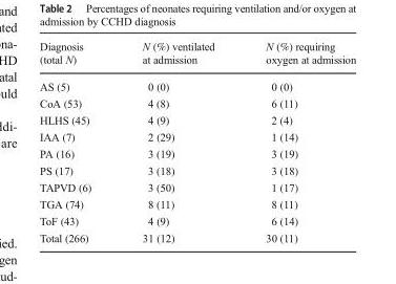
<table><thead><tr><td>Diagnosis (total N)</td><td>N (%) ventilated at admission</td><td>N (%) requiring oxygen at admission</td></tr></thead><tbody><tr><td>AS (5)</td><td>0 (0)</td><td>0 (0)</td></tr><tr><td>CoA (53)</td><td>4 (8)</td><td>6 (11)</td></tr><tr><td>HLHS (45)</td><td>4 (9)</td><td>2 (4)</td></tr><tr><td>IAA (7)</td><td>2 (29)</td><td>1 (14)</td></tr><tr><td>PA (16)</td><td>3 (19)</td><td>3 (19)</td></tr><tr><td>PS (17)</td><td>3 (18)</td><td>3 (18)</td></tr><tr><td>TAPVD (6)</td><td>3 (50)</td><td>1 (17)</td></tr><tr><td>TGA (74)</td><td>8 (11)</td><td>8 (11)</td></tr><tr><td>ToF (43)</td><td>4 (9)</td><td>6 (14)</td></tr><tr><td>Total (266)</td><td>31 (12)</td><td>30 (11)</td></tr></tbody></table>